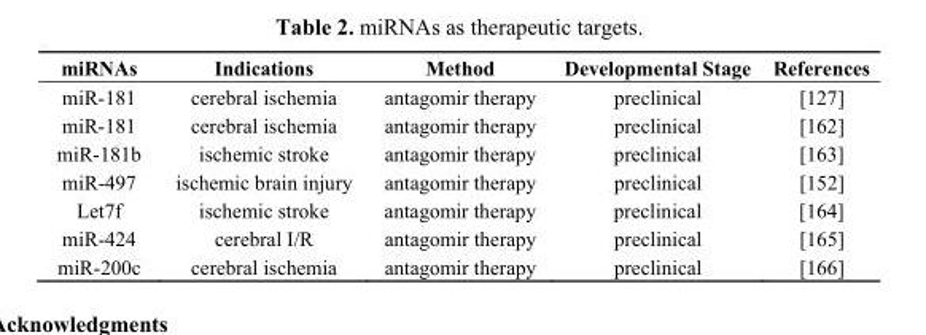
<table><thead><tr><td>miRNAs</td><td>Indications</td><td>Method</td><td>Developmental Stage</td><td>References</td></tr></thead><tbody><tr><td>miR-181</td><td>cerebral ischemia</td><td>antagomir therapy</td><td>preclinical</td><td>[127]</td></tr><tr><td>miR-181</td><td>cerebral ischemia</td><td>antagomir therapy</td><td>preclinical</td><td>[162]</td></tr><tr><td>miR-181b</td><td>ischemic stroke</td><td>antagomir therapy</td><td>preclinical</td><td>[163]</td></tr><tr><td>miR-497</td><td>ischemic brain injury</td><td>antagomir therapy</td><td>preclinical</td><td>[152]</td></tr><tr><td>Let7f</td><td>ischemic stroke</td><td>antagomir therapy</td><td>preclinical</td><td>[164]</td></tr><tr><td>miR-424</td><td>cerebral I/R</td><td>antagomir therapy</td><td>preclinical</td><td>[165]</td></tr><tr><td>miR-200c</td><td>cerebral ischemia</td><td>antagomir therapy</td><td>preclinical</td><td>[166]</td></tr></tbody></table>